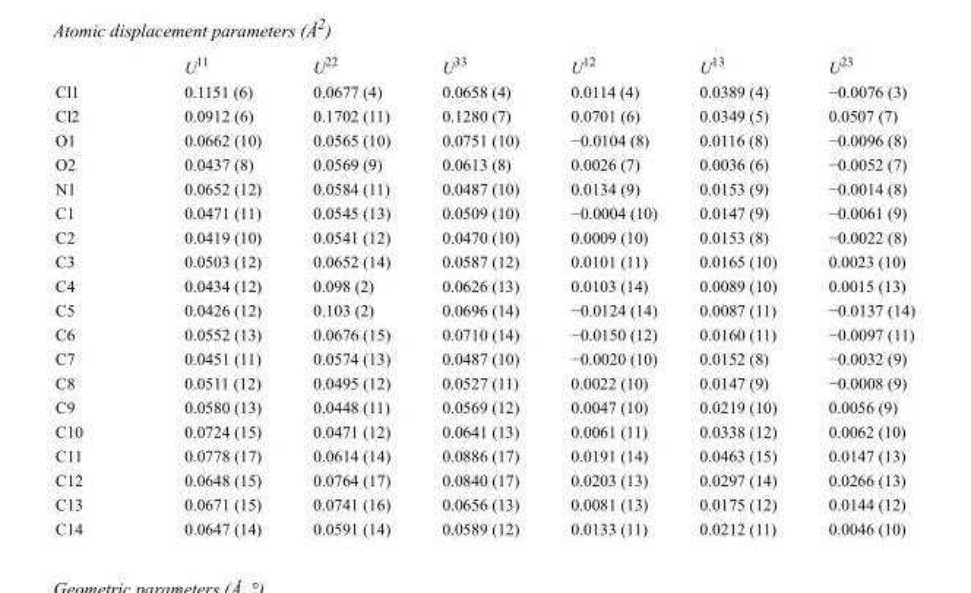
<table><thead><tr><td></td><td>U<sup>11</sup></td><td>U<sup>22</sup></td><td>U<sup>33</sup></td><td>U<sup>12</sup></td><td>U<sup>13</sup></td><td>U<sup>23</sup></td></tr></thead><tbody><tr><td>Cl1</td><td>0.1151 (6)</td><td>0.0677 (4)</td><td>0.0658 (4)</td><td>0.0114 (4)</td><td>0.0389 (4)</td><td>−0.0076 (3)</td></tr><tr><td>Cl2</td><td>0.0912 (6)</td><td>0.1702 (11)</td><td>0.1280 (7)</td><td>0.0701 (6)</td><td>0.0349 (5)</td><td>0.0507 (7)</td></tr><tr><td>O1</td><td>0.0662 (10)</td><td>0.0565 (10)</td><td>0.0751 (10)</td><td>−0.0104 (8)</td><td>0.0116 (8)</td><td>−0.0096 (8)</td></tr><tr><td>O2</td><td>0.0437 (8)</td><td>0.0569 (9)</td><td>0.0613 (8)</td><td>0.0026 (7)</td><td>0.0036 (6)</td><td>−0.0052 (7)</td></tr><tr><td>N1</td><td>0.0652 (12)</td><td>0.0584 (11)</td><td>0.0487 (10)</td><td>0.0134 (9)</td><td>0.0153 (9)</td><td>−0.0014 (8)</td></tr><tr><td>C1</td><td>0.0471 (11)</td><td>0.0545 (13)</td><td>0.0509 (10)</td><td>−0.0004 (10)</td><td>0.0147 (9)</td><td>−0.0061 (9)</td></tr><tr><td>C2</td><td>0.0419 (10)</td><td>0.0541 (12)</td><td>0.0470 (10)</td><td>0.0009 (10)</td><td>0.0153 (8)</td><td>−0.0022 (8)</td></tr><tr><td>C3</td><td>0.0503 (12)</td><td>0.0652 (14)</td><td>0.0587 (12)</td><td>0.0101 (11)</td><td>0.0165 (10)</td><td>0.0023 (10)</td></tr><tr><td>C4</td><td>0.0434 (12)</td><td>0.098 (2)</td><td>0.0626 (13)</td><td>0.0103 (14)</td><td>0.0089 (10)</td><td>0.0015 (13)</td></tr><tr><td>C5</td><td>0.0426 (12)</td><td>0.103 (2)</td><td>0.0696 (14)</td><td>−0.0124 (14)</td><td>0.0087 (11)</td><td>−0.0137 (14)</td></tr><tr><td>C6</td><td>0.0552 (13)</td><td>0.0676 (15)</td><td>0.0710 (14)</td><td>−0.0150 (12)</td><td>0.0160 (11)</td><td>−0.0097 (11)</td></tr><tr><td>C7</td><td>0.0451 (11)</td><td>0.0574 (13)</td><td>0.0487 (10)</td><td>−0.0020 (10)</td><td>0.0152 (8)</td><td>−0.0032 (9)</td></tr><tr><td>C8</td><td>0.0511 (12)</td><td>0.0495 (12)</td><td>0.0527 (11)</td><td>0.0022 (10)</td><td>0.0147 (9)</td><td>−0.0008 (9)</td></tr><tr><td>C9</td><td>0.0580 (13)</td><td>0.0448 (11)</td><td>0.0569 (12)</td><td>0.0047 (10)</td><td>0.0219 (10)</td><td>0.0056 (9)</td></tr><tr><td>C10</td><td>0.0724 (15)</td><td>0.0471 (12)</td><td>0.0641 (13)</td><td>0.0061 (11)</td><td>0.0338 (12)</td><td>0.0062 (10)</td></tr><tr><td>C11</td><td>0.0778 (17)</td><td>0.0614 (14)</td><td>0.0886 (17)</td><td>0.0191 (14)</td><td>0.0463 (15)</td><td>0.0147 (13)</td></tr><tr><td>C12</td><td>0.0648 (15)</td><td>0.0764 (17)</td><td>0.0840 (17)</td><td>0.0203 (13)</td><td>0.0297 (14)</td><td>0.0266 (13)</td></tr><tr><td>C13</td><td>0.0671 (15)</td><td>0.0741 (16)</td><td>0.0656 (13)</td><td>0.0081 (13)</td><td>0.0175 (12)</td><td>0.0144 (12)</td></tr><tr><td>C14</td><td>0.0647 (14)</td><td>0.0591 (14)</td><td>0.0589 (12)</td><td>0.0133 (11)</td><td>0.0212 (11)</td><td>0.0046 (10)</td></tr></tbody></table>